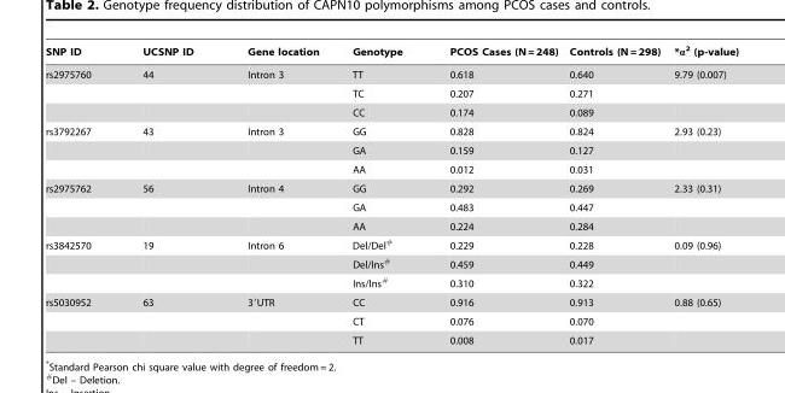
<table><thead><tr><td>SNP ID</td><td>UCSNP ID</td><td>Gene location</td><td>Genotype</td><td>PCOS Cases (N = 248)</td><td>Controls (N = 298)</td><td>*α<sup>2</sup> (p-value)</td></tr></thead><tbody><tr><td rowspan="3">rs2975760</td><td>44</td><td>Intron 3</td><td>TT</td><td>0.618</td><td>0.640</td><td>9.79 (0.007)</td></tr><tr><td></td><td></td><td>TC</td><td>0.207</td><td>0.271</td><td></td></tr><tr><td></td><td></td><td>CC</td><td>0.174</td><td>0.089</td><td></td></tr><tr><td rowspan="3">rs3792267</td><td>43</td><td>Intron 3</td><td>GG</td><td>0.828</td><td>0.824</td><td>2.93 (0.23)</td></tr><tr><td></td><td></td><td>GA</td><td>0.159</td><td>0.127</td><td></td></tr><tr><td></td><td></td><td>AA</td><td>0.012</td><td>0.031</td><td></td></tr><tr><td rowspan="3">rs2975762</td><td>56</td><td>Intron 4</td><td>GG</td><td>0.292</td><td>0.269</td><td>2.33 (0.31)</td></tr><tr><td></td><td></td><td>GA</td><td>0.483</td><td>0.447</td><td></td></tr><tr><td></td><td></td><td>AA</td><td>0.224</td><td>0.284</td><td></td></tr><tr><td rowspan="3">rs3842570</td><td>19</td><td>Intron 6</td><td>Del/Del#</td><td>0.229</td><td>0.228</td><td>0.09 (0.96)</td></tr><tr><td></td><td></td><td>Del/Ins#</td><td>0.459</td><td>0.449</td><td></td></tr><tr><td></td><td></td><td>Ins/Ins#</td><td>0.310</td><td>0.322</td><td></td></tr><tr><td rowspan="3">rs5030952</td><td>63</td><td>3′UTR</td><td>CC</td><td>0.916</td><td>0.913</td><td>0.88 (0.65)</td></tr><tr><td></td><td></td><td>CT</td><td>0.076</td><td>0.070</td><td></td></tr><tr><td></td><td></td><td>TT</td><td>0.008</td><td>0.017</td><td></td></tr></tbody></table>